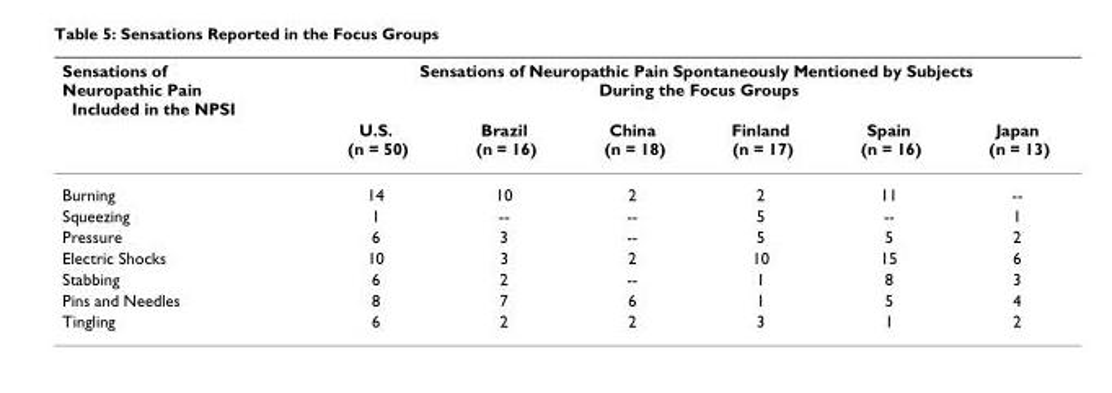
<table><thead><tr><td rowspan="2">Sensations of Neuropathic Pain Included in the NPSI</td><td colspan="6">Sensations of Neuropathic Pain Spontaneously Mentioned by Subjects During the Focus Groups</td></tr><tr><td>U.S. (n = 50)</td><td>Brazil (n = 16)</td><td>China (n = 18)</td><td>Finland (n = 17)</td><td>Spain (n = 16)</td><td>Japan (n = 13)</td></tr></thead><tbody><tr><td>Burning</td><td>14</td><td>10</td><td>2</td><td>2</td><td>11</td><td>--</td></tr><tr><td>Squeezing</td><td>1</td><td>--</td><td>--</td><td>5</td><td>--</td><td>1</td></tr><tr><td>Pressure</td><td>6</td><td>3</td><td>--</td><td>5</td><td>5</td><td>2</td></tr><tr><td>Electric Shocks</td><td>10</td><td>3</td><td>2</td><td>10</td><td>15</td><td>6</td></tr><tr><td>Stabbing</td><td>6</td><td>2</td><td>--</td><td>1</td><td>8</td><td>3</td></tr><tr><td>Pins and Needles</td><td>8</td><td>7</td><td>6</td><td>1</td><td>5</td><td>4</td></tr><tr><td>Tingling</td><td>6</td><td>2</td><td>2</td><td>3</td><td>1</td><td>2</td></tr></tbody></table>